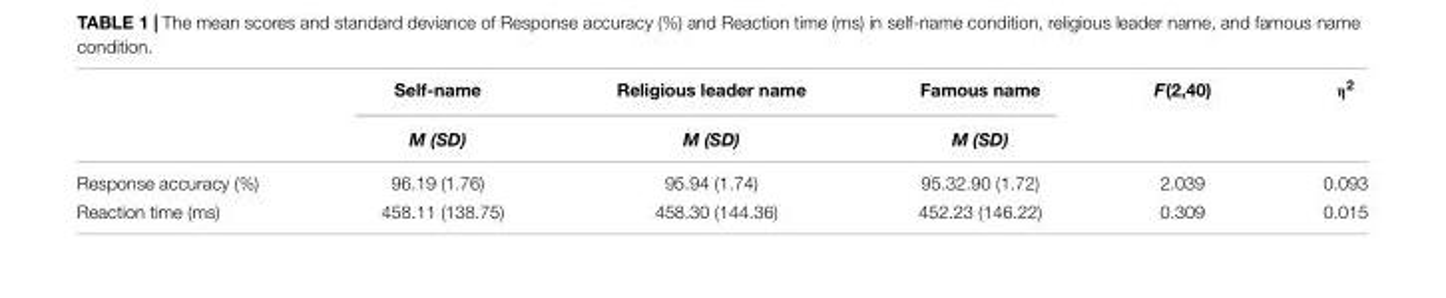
<table><thead><tr><td rowspan="2"></td><td rowspan="2">Self-name M (SD)</td><td rowspan="2">Religious leader name M (SD)</td><td rowspan="2">Famous name M (SD)</td><td rowspan="2">F(2,40)</td><td rowspan="2">η<sup>2</sup></td></tr><tr></tr></thead><tbody><tr><td>Response accuracy (%)</td><td>96.19 (1.76)</td><td>95.94 (1.74)</td><td>95.32.90 (1.72)</td><td>2.039</td><td>0.093</td></tr><tr><td>Reaction time (ms)</td><td>458.11 (138.75)</td><td>458.30 (144.36)</td><td>452.23 (146.22)</td><td>0.309</td><td>0.015</td></tr></tbody></table>